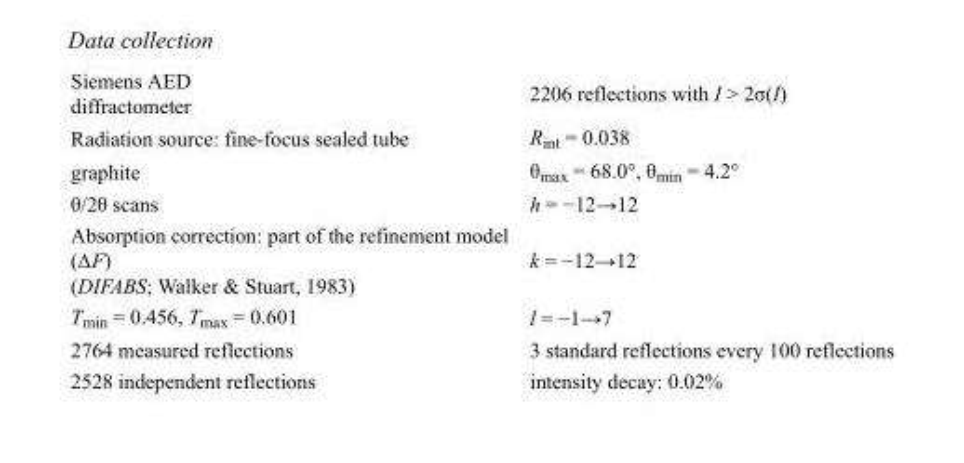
<table><tbody><tr><td>Siemens AED diffractometer</td><td>2206 reflections with I &gt; 2σ(I)</td></tr><tr><td>Radiation source: fine-focus sealed tube</td><td>R<sub>int</sub> = 0.038</td></tr><tr><td>graphite</td><td>θ<sub>max</sub> = 68.0°, θ<sub>min</sub> = 4.2°</td></tr><tr><td>θ/2θ scans</td><td>h = −12→12</td></tr><tr><td>Absorption correction: part of the refinement model (ΔF) (DIFABS; Walker &amp; Stuart, 1983)</td><td>k = −12→12</td></tr><tr><td>T<sub>min</sub> = 0.456, T<sub>max</sub> = 0.601</td><td>l = −1→7</td></tr><tr><td>2764 measured reflections</td><td>3 standard reflections every 100 reflections</td></tr><tr><td>2528 independent reflections</td><td>intensity decay: 0.02%</td></tr></tbody></table>